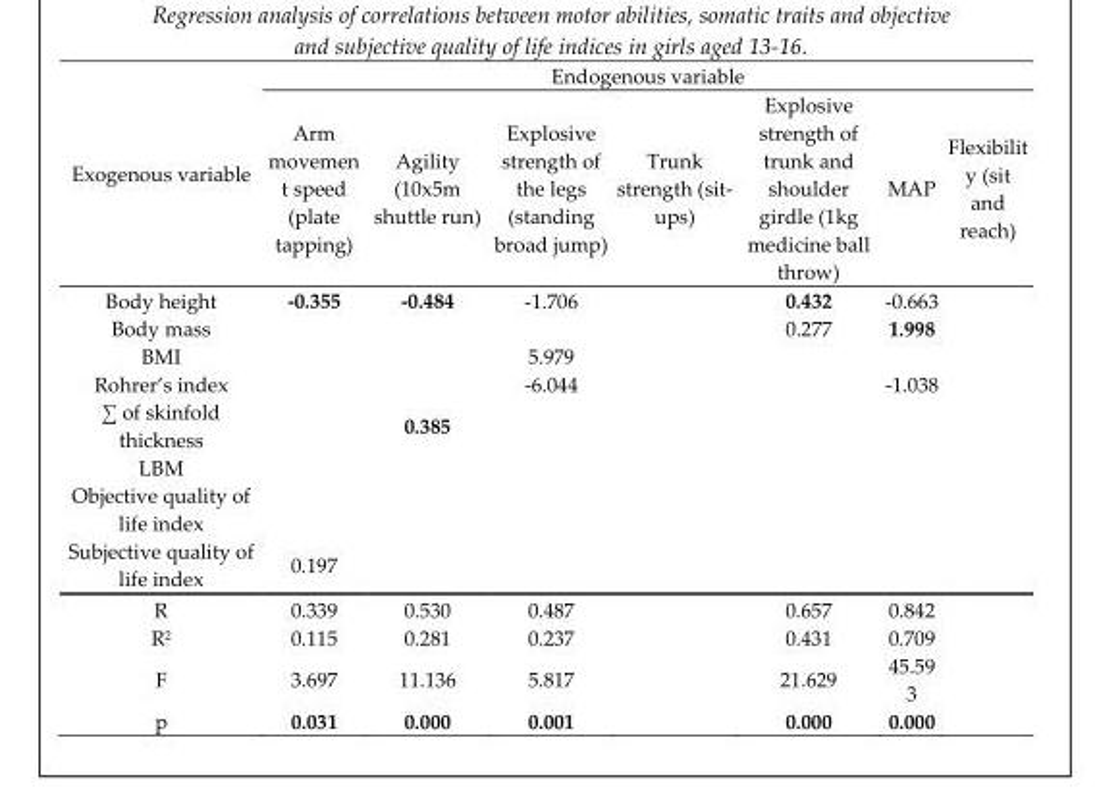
<table><thead><tr><td rowspan="2">Exogenous variable</td><td colspan="7">Endogenous variable</td></tr><tr><td>Arm movemen t speed (plate tapping)</td><td>Agility (10x5m shuttle run)</td><td>Explosive strength of the legs (standing broad jump)</td><td>Trunk strength (sit- ups)</td><td>Explosive strength of trunk and shoulder girdle (1kg medicine ball throw)</td><td>MAP</td><td>Flexibilit y (sit and reach)</td></tr></thead><tbody><tr><td>Body height</td><td>-0.355</td><td>-0.484</td><td>-1.706</td><td></td><td>0.432</td><td>-0.663</td><td></td></tr><tr><td>Body mass</td><td></td><td></td><td></td><td></td><td>0.277</td><td>1.998</td><td></td></tr><tr><td>BMI</td><td></td><td></td><td>5.979</td><td></td><td></td><td></td><td></td></tr><tr><td>Rohrer’s index</td><td></td><td></td><td>-6.044</td><td></td><td></td><td>-1.038</td><td></td></tr><tr><td>∑ of skinfold thickness</td><td></td><td>0.385</td><td></td><td></td><td></td><td></td><td></td></tr><tr><td colspan="8">LBM</td></tr><tr><td colspan="8">Objective quality of life index</td></tr><tr><td>Subjective quality of life index</td><td>0.197</td><td></td><td></td><td></td><td></td><td></td><td></td></tr><tr><td>R</td><td>0.339</td><td>0.530</td><td>0.487</td><td></td><td>0.657</td><td>0.842</td><td></td></tr><tr><td>R<sup>2</sup></td><td>0.115</td><td>0.281</td><td>0.237</td><td></td><td>0.431</td><td>0.709</td><td></td></tr><tr><td>F</td><td>3.697</td><td>11.136</td><td>5.817</td><td></td><td>21.629</td><td>45.59 3</td><td></td></tr><tr><td>p</td><td>0.031</td><td>0.000</td><td>0.001</td><td></td><td>0.000</td><td>0.000</td><td></td></tr></tbody></table>